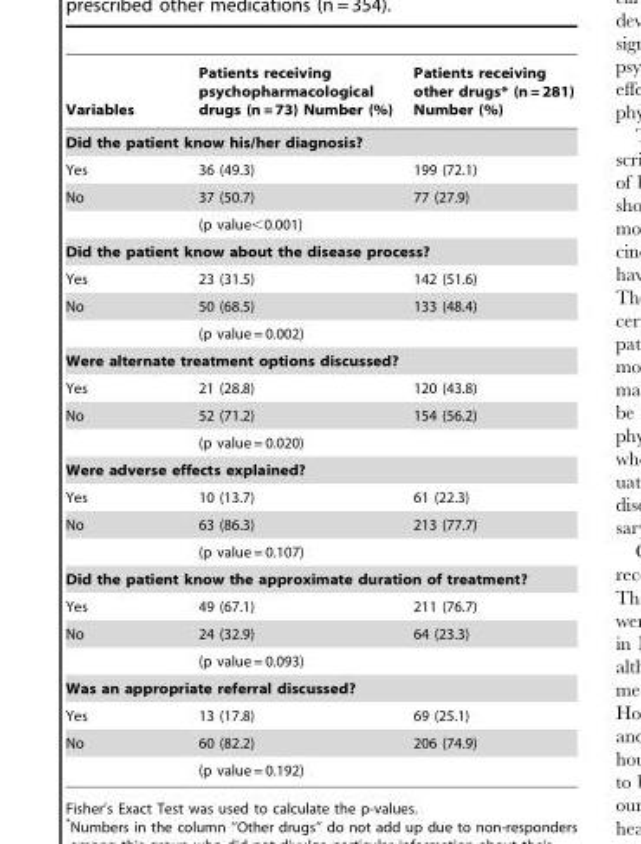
<table><thead><tr><td>Variables</td><td>Patients receiving psychopharmacological drugs (n = 73) Number (%)</td><td>Patients receiving other drugs* (n = 281) Number (%)</td></tr></thead><tbody><tr><td colspan="3">Did the patient know his/her diagnosis?</td></tr><tr><td>Yes</td><td>36 (49.3)</td><td>199 (72.1)</td></tr><tr><td rowspan="2">No</td><td>37 (50.7)</td><td>77 (27.9)</td></tr><tr><td colspan="2">(p value&lt;0.001)</td></tr><tr><td colspan="3">Did the patient know about the disease process?</td></tr><tr><td>Yes</td><td>23 (31.5)</td><td>142 (51.6)</td></tr><tr><td rowspan="2">No</td><td>50 (68.5)</td><td>133 (48.4)</td></tr><tr><td colspan="2">(p value = 0.002)</td></tr><tr><td colspan="3">Were alternate treatment options discussed?</td></tr><tr><td>Yes</td><td>21 (28.8)</td><td>120 (43.8)</td></tr><tr><td rowspan="2">No</td><td>52 (71.2)</td><td>154 (56.2)</td></tr><tr><td colspan="2">(p value = 0.020)</td></tr><tr><td colspan="3">Were adverse effects explained?</td></tr><tr><td>Yes</td><td>10 (13.7)</td><td>61 (22.3)</td></tr><tr><td rowspan="2">No</td><td>63 (86.3)</td><td>213 (77.7)</td></tr><tr><td colspan="2">(p value = 0.107)</td></tr><tr><td colspan="3">Did the patient know the approximate duration of treatment?</td></tr><tr><td>Yes</td><td>49 (67.1)</td><td>211 (76.7)</td></tr><tr><td rowspan="2">No</td><td>24 (32.9)</td><td>64 (23.3)</td></tr><tr><td colspan="2">(p value = 0.093)</td></tr><tr><td colspan="3">Was an appropriate referral discussed?</td></tr><tr><td>Yes</td><td>13 (17.8)</td><td>69 (25.1)</td></tr><tr><td rowspan="2">No</td><td>60 (82.2)</td><td>206 (74.9)</td></tr><tr><td colspan="2">(p value = 0.192)</td></tr></tbody></table>